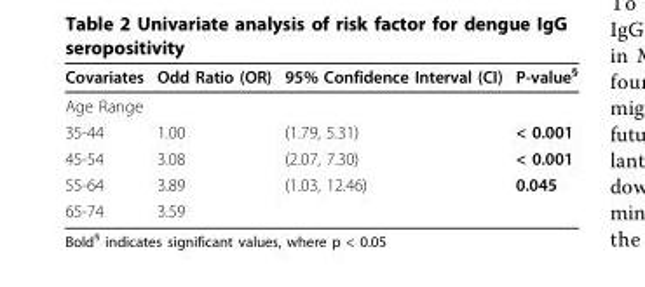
<table><thead><tr><td>Covariates</td><td>Odd Ratio (OR)</td><td>95% Confidence Interval (CI)</td><td>P-value<sup>§</sup></td></tr></thead><tbody><tr><td colspan="4">Age Range</td></tr><tr><td>35-44</td><td>1.00</td><td>(1.79, 5.31)</td><td>&lt; 0.001</td></tr><tr><td>45-54</td><td>3.08</td><td>(2.07, 7.30)</td><td>&lt; 0.001</td></tr><tr><td>55-64</td><td>3.89</td><td>(1.03, 12.46)</td><td>0.045</td></tr><tr><td>65-74</td><td>3.59</td><td></td><td></td></tr></tbody></table>